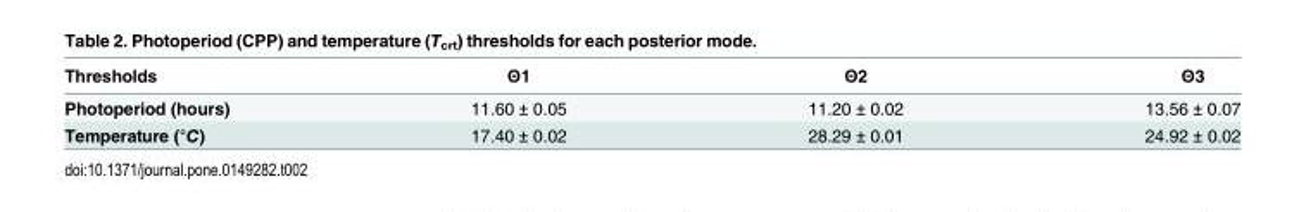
<table><thead><tr><td>Thresholds</td><td>Θ1</td><td>Θ2</td><td>Θ3</td></tr></thead><tbody><tr><td>Photoperiod (hours)</td><td>11.60 ± 0.05</td><td>11.20 ± 0.02</td><td>13.56 ± 0.07</td></tr><tr><td>Temperature (°C)</td><td>17.40 ± 0.02</td><td>28.29 ± 0.01</td><td>24.92 ± 0.02</td></tr></tbody></table>